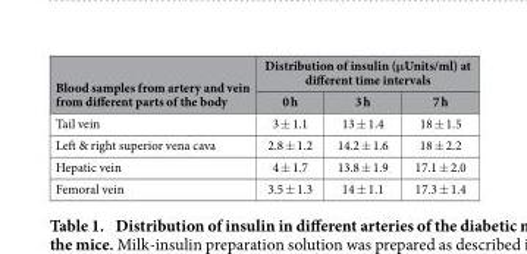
<table><thead><tr><td rowspan="2">Blood samples from artery and vein from different parts of the body</td><td colspan="3">Distribution of insulin (μUnits/ml) at different time intervals</td></tr><tr><td>0 h</td><td>3 h</td><td>7 h</td></tr></thead><tbody><tr><td>Tail vein</td><td>3 ± 1.1</td><td>13 ± 1.4</td><td>18 ± 1.5</td></tr><tr><td>Left &amp; right superior vena cava</td><td>2.8 ± 1.2</td><td>14.2 ± 1.6</td><td>18 ± 2.2</td></tr><tr><td>Hepatic vein</td><td>4 ± 1.7</td><td>13.8 ± 1.9</td><td>17.1 ± 2.0</td></tr><tr><td>Femoral vein</td><td>3.5 ± 1.3</td><td>14 ± 1.1</td><td>17.3 ± 1.4</td></tr></tbody></table>